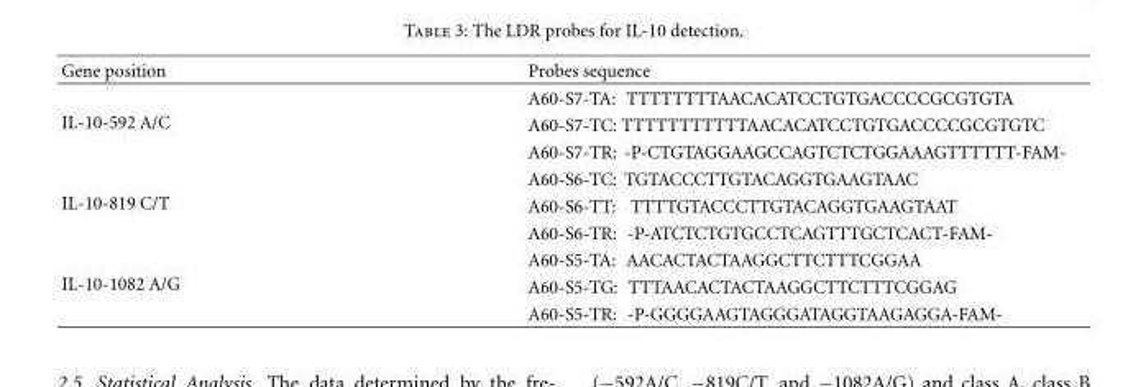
<table><thead><tr><td>Gene position</td><td>Probes sequence</td></tr></thead><tbody><tr><td rowspan="3">IL-10-592 A/C</td><td>A60-S7-TA: TTTTTTTTAACACATCCTGTGACCCCGCGTGTA</td></tr><tr><td>A60-S7-TC: TTTTTTTTTTTAACACATCCTGTGACCCCGCGTGTC</td></tr><tr><td>A60-S7-TR: -P-CTGTAGGAAGCCAGTCTCTGGAAAGTTTTTT-FAM-</td></tr><tr><td rowspan="3">IL-10-819 C/T</td><td>A60-S6-TC: TGTACCCTTGTACAGGTGAAGTAAC</td></tr><tr><td>A60-S6-TT: TTTTGTACCCTTGTACAGGTGAAGTAAT</td></tr><tr><td>A60-S6-TR: -P-ATCTCTGTGCCTCAGTTTGCTCACT-FAM-</td></tr><tr><td rowspan="3">IL-10-1082 A/G</td><td>A60-S5-TA: AACACTACTAAGGCTTCTTTCGGAA</td></tr><tr><td>A60-S5-TG: TTTAACACTACTAAGGCTTCTTTCGGAG</td></tr><tr><td>A60-S5-TR: -P-GGGGAAGTAGGGATAGGTAAGAGGA-FAM-</td></tr></tbody></table>